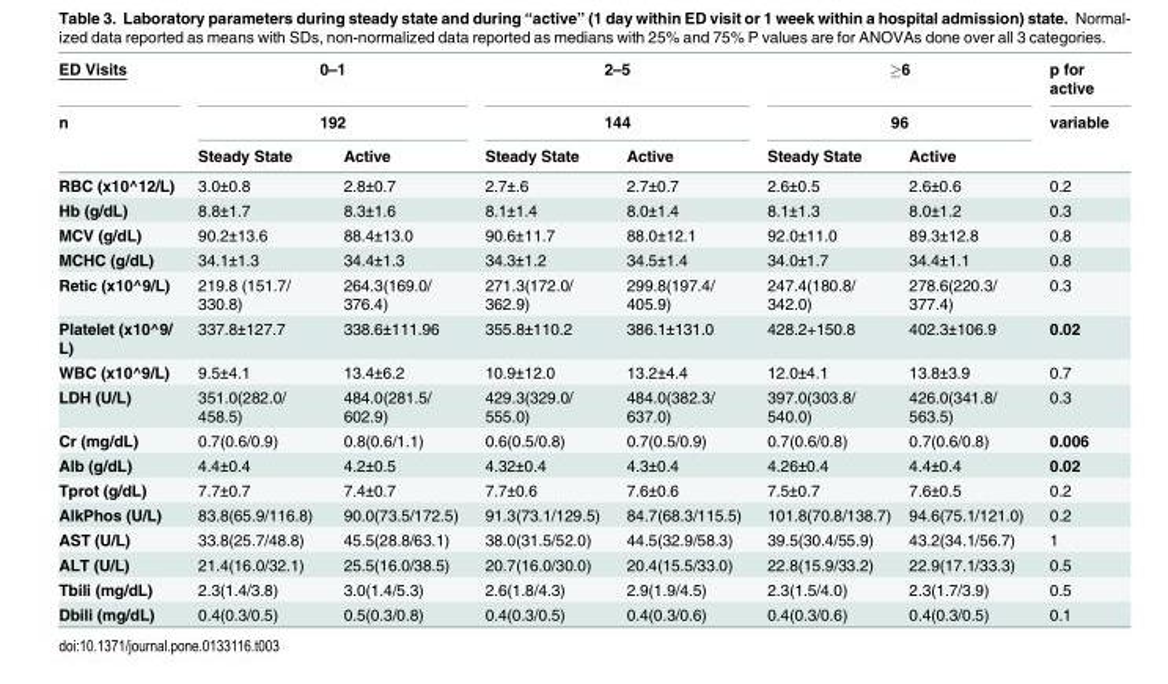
<table><thead><tr><td rowspan="3">ED Visits n</td><td rowspan="2" colspan="2">0–1 192</td><td rowspan="2" colspan="2">2–5 144</td><td rowspan="2" colspan="2">≥6 96</td><td rowspan="3">p for active variable</td></tr><tr></tr><tr><td>Steady State</td><td>Active</td><td>Steady State</td><td>Active</td><td>Steady State</td><td>Active</td></tr></thead><tbody><tr><td>RBC (x10^12/L)</td><td>3.0±0.8</td><td>2.8±0.7</td><td>2.7±.6</td><td>2.7±0.7</td><td>2.6±0.5</td><td>2.6±0.6</td><td>0.2</td></tr><tr><td>Hb (g/dL)</td><td>8.8±1.7</td><td>8.3±1.6</td><td>8.1±1.4</td><td>8.0±1.4</td><td>8.1±1.3</td><td>8.0±1.2</td><td>0.3</td></tr><tr><td>MCV (g/dL)</td><td>90.2±13.6</td><td>88.4±13.0</td><td>90.6±11.7</td><td>88.0±12.1</td><td>92.0±11.0</td><td>89.3±12.8</td><td>0.8</td></tr><tr><td>MCHC (g/dL)</td><td>34.1±1.3</td><td>34.4±1.3</td><td>34.3±1.2</td><td>34.5±1.4</td><td>34.0±1.7</td><td>34.4±1.1</td><td>0.8</td></tr><tr><td>Retic (x10^9/L)</td><td>219.8 (151.7/ 330.8)</td><td>264.3(169.0/ 376.4)</td><td>271.3(172.0/ 362.9)</td><td>299.8(197.4/ 405.9)</td><td>247.4(180.8/ 342.0)</td><td>278.6(220.3/ 377.4)</td><td>0.3</td></tr><tr><td>Platelet (x10^9/ L)</td><td>337.8±127.7</td><td>338.6±111.96</td><td>355.8±110.2</td><td>386.1±131.0</td><td>428.2+150.8</td><td>402.3±106.9</td><td>0.02</td></tr><tr><td>WBC (x10^9/L)</td><td>9.5±4.1</td><td>13.4±6.2</td><td>10.9±12.0</td><td>13.2±4.4</td><td>12.0±4.1</td><td>13.8±3.9</td><td>0.7</td></tr><tr><td>LDH (U/L)</td><td>351.0(282.0/ 458.5)</td><td>484.0(281.5/ 602.9)</td><td>429.3(329.0/ 555.0)</td><td>484.0(382.3/ 637.0)</td><td>397.0(303.8/ 540.0)</td><td>426.0(341.8/ 563.5)</td><td>0.3</td></tr><tr><td>Cr (mg/dL)</td><td>0.7(0.6/0.9)</td><td>0.8(0.6/1.1)</td><td>0.6(0.5/0.8)</td><td>0.7(0.5/0.9)</td><td>0.7(0.6/0.8)</td><td>0.7(0.6/0.8)</td><td>0.006</td></tr><tr><td>Alb (g/dL)</td><td>4.4±0.4</td><td>4.2±0.5</td><td>4.32±0.4</td><td>4.3±0.4</td><td>4.26±0.4</td><td>4.4±0.4</td><td>0.02</td></tr><tr><td>Tprot (g/dL)</td><td>7.7±0.7</td><td>7.4±0.7</td><td>7.7±0.6</td><td>7.6±0.6</td><td>7.5±0.7</td><td>7.6±0.5</td><td>0.2</td></tr><tr><td>AlkPhos (U/L)</td><td>83.8(65.9/116.8)</td><td>90.0(73.5/172.5)</td><td>91.3(73.1/129.5)</td><td>84.7(68.3/115.5)</td><td>101.8(70.8/138.7)</td><td>94.6(75.1/121.0)</td><td>0.2</td></tr><tr><td>AST (U/L)</td><td>33.8(25.7/48.8)</td><td>45.5(28.8/63.1)</td><td>38.0(31.5/52.0)</td><td>44.5(32.9/58.3)</td><td>39.5(30.4/55.9)</td><td>43.2(34.1/56.7)</td><td>1</td></tr><tr><td>ALT (U/L)</td><td>21.4(16.0/32.1)</td><td>25.5(16.0/38.5)</td><td>20.7(16.0/30.0)</td><td>20.4(15.5/33.0)</td><td>22.8(15.9/33.2)</td><td>22.9(17.1/33.3)</td><td>0.5</td></tr><tr><td>Tbili (mg/dL)</td><td>2.3(1.4/3.8)</td><td>3.0(1.4/5.3)</td><td>2.6(1.8/4.3)</td><td>2.9(1.9/4.5)</td><td>2.3(1.5/4.0)</td><td>2.3(1.7/3.9)</td><td>0.5</td></tr><tr><td>Dbili (mg/dL)</td><td>0.4(0.3/0.5)</td><td>0.5(0.3/0.8)</td><td>0.4(0.3/0.5)</td><td>0.4(0.3/0.6)</td><td>0.4(0.3/0.6)</td><td>0.4(0.3/0.5)</td><td>0.1</td></tr></tbody></table>